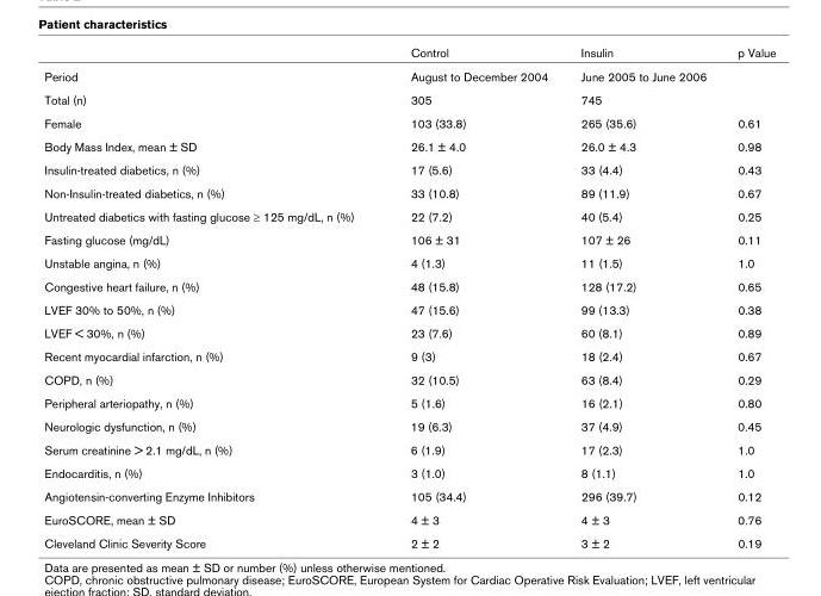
<table><thead><tr><td></td><td>Control</td><td>Insulin</td><td>p Value</td></tr></thead><tbody><tr><td>Period</td><td>August to December 2004</td><td>June 2005 to June 2006</td><td></td></tr><tr><td>Total (n)</td><td>305</td><td>745</td><td></td></tr><tr><td>Female</td><td>103 (33.8)</td><td>265 (35.6)</td><td>0.61</td></tr><tr><td>Body Mass Index, mean ± SD</td><td>26.1 ± 4.0</td><td>26.0 ± 4.3</td><td>0.98</td></tr><tr><td>Insulin-treated diabetics, n (%)</td><td>17 (5.6)</td><td>33 (4.4)</td><td>0.43</td></tr><tr><td>Non-Insulin-treated diabetics, n (%)</td><td>33 (10.8)</td><td>89 (11.9)</td><td>0.67</td></tr><tr><td>Untreated diabetics with fasting glucose ≥ 125 mg/dL, n (%)</td><td>22 (7.2)</td><td>40 (5.4)</td><td>0.25</td></tr><tr><td>Fasting glucose (mg/dL)</td><td>106 ± 31</td><td>107 ± 26</td><td>0.11</td></tr><tr><td>Unstable angina, n (%)</td><td>4 (1.3)</td><td>11 (1.5)</td><td>1.0</td></tr><tr><td>Congestive heart failure, n (%)</td><td>48 (15.8)</td><td>128 (17.2)</td><td>0.65</td></tr><tr><td>LVEF 30% to 50%, n (%)</td><td>47 (15.6)</td><td>99 (13.3)</td><td>0.38</td></tr><tr><td>LVEF &lt; 30%, n (%)</td><td>23 (7.6)</td><td>60 (8.1)</td><td>0.89</td></tr><tr><td>Recent myocardial infarction, n (%)</td><td>9 (3)</td><td>18 (2.4)</td><td>0.67</td></tr><tr><td>COPD, n (%)</td><td>32 (10.5)</td><td>63 (8.4)</td><td>0.29</td></tr><tr><td>Peripheral arteriopathy, n (%)</td><td>5 (1.6)</td><td>16 (2.1)</td><td>0.80</td></tr><tr><td>Neurologic dysfunction, n (%)</td><td>19 (6.3)</td><td>37 (4.9)</td><td>0.45</td></tr><tr><td>Serum creatinine &gt; 2.1 mg/dL, n (%)</td><td>6 (1.9)</td><td>17 (2.3)</td><td>1.0</td></tr><tr><td>Endocarditis, n (%)</td><td>3 (1.0)</td><td>8 (1.1)</td><td>1.0</td></tr><tr><td>Angiotensin-converting Enzyme Inhibitors</td><td>105 (34.4)</td><td>296 (39.7)</td><td>0.12</td></tr><tr><td>EuroSCORE, mean ± SD</td><td>4 ± 3</td><td>4 ± 3</td><td>0.76</td></tr><tr><td>Cleveland Clinic Severity Score</td><td>2 ± 2</td><td>3 ± 2</td><td>0.19</td></tr></tbody></table>